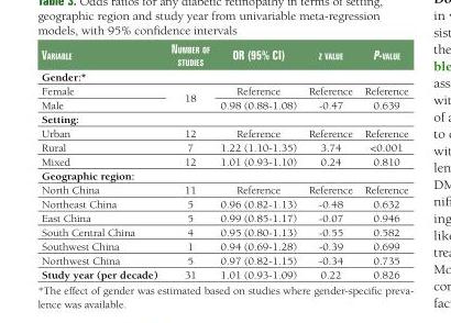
<table><thead><tr><td>vaRiable</td><td>numbeR of studies</td><td>oR (95% ci)</td><td>z value</td><td>p-value</td></tr></thead><tbody><tr><td colspan="5">Gender:*</td></tr><tr><td>Female</td><td rowspan="2">18</td><td>Reference</td><td>Reference</td><td>Reference</td></tr><tr><td>Male</td><td>0.98 (0.88-1.08)</td><td>-0.47</td><td>0.639</td></tr><tr><td colspan="5">Setting:</td></tr><tr><td>Urban</td><td>12</td><td>Reference</td><td>Reference</td><td>Reference</td></tr><tr><td>Rural</td><td>7</td><td>1.22 (1.10-1.35)</td><td>3.74</td><td>&lt;0.001</td></tr><tr><td>Mixed</td><td>12</td><td>1.01 (0.93-1.10)</td><td>0.24</td><td>0.810</td></tr><tr><td colspan="5">Geographic region:</td></tr><tr><td>North China</td><td>11</td><td>Reference</td><td>Reference</td><td>Reference</td></tr><tr><td>Northeast China</td><td>5</td><td>0.96 (0.82-1.13)</td><td>-0.48</td><td>0.632</td></tr><tr><td>East China</td><td>5</td><td>0.99 (0.85-1.17)</td><td>-0.07</td><td>0.946</td></tr><tr><td>South Central China</td><td>4</td><td>0.95 (0.80-1.13)</td><td>-0.55</td><td>0.582</td></tr><tr><td>Southwest China</td><td>1</td><td>0.94 (0.69-1.28)</td><td>-0.39</td><td>0.699</td></tr><tr><td>Northwest China</td><td>5</td><td>0.97 (0.82-1.15)</td><td>-0.34</td><td>0.735</td></tr><tr><td>Study year (per decade)</td><td>31</td><td>1.01 (0.93-1.09)</td><td>0.22</td><td>0.826</td></tr></tbody></table>